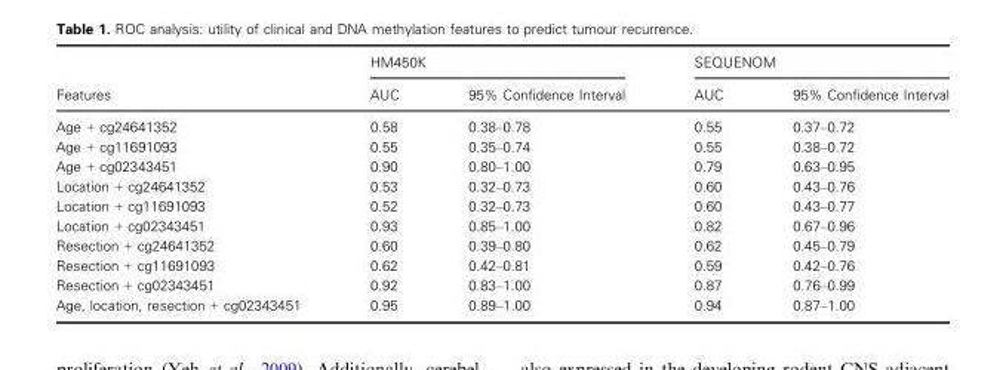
<table><thead><tr><td rowspan="2">Features</td><td colspan="2">HM450K</td><td colspan="2">SEQUENOM</td></tr><tr><td>AUC</td><td>95% Confidence Interval</td><td>AUC</td><td>95% Confidence Interval</td></tr></thead><tbody><tr><td>Age + cg24641352</td><td>0.58</td><td>0.38–0.78</td><td>0.55</td><td>0.37–0.72</td></tr><tr><td>Age + cg11691093</td><td>0.55</td><td>0.35–0.74</td><td>0.55</td><td>0.38–0.72</td></tr><tr><td>Age + cg02343451</td><td>0.90</td><td>0.80–1.00</td><td>0.79</td><td>0.63–0.95</td></tr><tr><td>Location + cg24641352</td><td>0.53</td><td>0.32–0.73</td><td>0.60</td><td>0.43–0.76</td></tr><tr><td>Location + cg11691093</td><td>0.52</td><td>0.32–0.73</td><td>0.60</td><td>0.43–0.77</td></tr><tr><td>Location + cg02343451</td><td>0.93</td><td>0.85–1.00</td><td>0.82</td><td>0.67–0.96</td></tr><tr><td>Resection + cg24641352</td><td>0.60</td><td>0.39–0.80</td><td>0.62</td><td>0.45–0.79</td></tr><tr><td>Resection + cg11691093</td><td>0.62</td><td>0.42–0.81</td><td>0.59</td><td>0.42–0.76</td></tr><tr><td>Resection + cg02343451</td><td>0.92</td><td>0.83–1.00</td><td>0.87</td><td>0.76–0.99</td></tr><tr><td>Age, location, resection + cg02343451</td><td>0.95</td><td>0.89–1.00</td><td>0.94</td><td>0.87–1.00</td></tr></tbody></table>